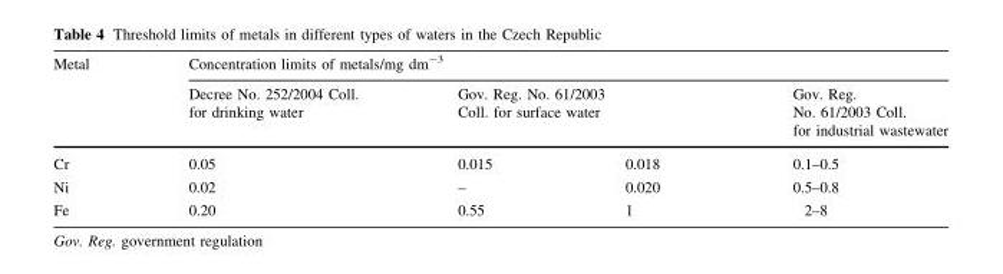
<table><thead><tr><td rowspan="3">Metal Cr</td><td colspan="4">Concentration limits of metals/mg dm<sup>-3</sup></td></tr><tr><td rowspan="2">Decree No. 252/2004 Coll. for drinking water 0.05</td><td colspan="2">Gov. Reg. No. 61/2003 Coll. for surface water</td><td rowspan="2">Gov. Reg. No. 61/2003 Coll. for industrial wastewater 0.1–0.5</td></tr><tr><td>0.015</td><td>0.018</td></tr></thead><tbody><tr><td>Ni</td><td>0.02</td><td>–</td><td>0.020</td><td>0.5–0.8</td></tr><tr><td>Fe</td><td>0.20</td><td>0.55</td><td>1</td><td>2–8</td></tr></tbody></table>